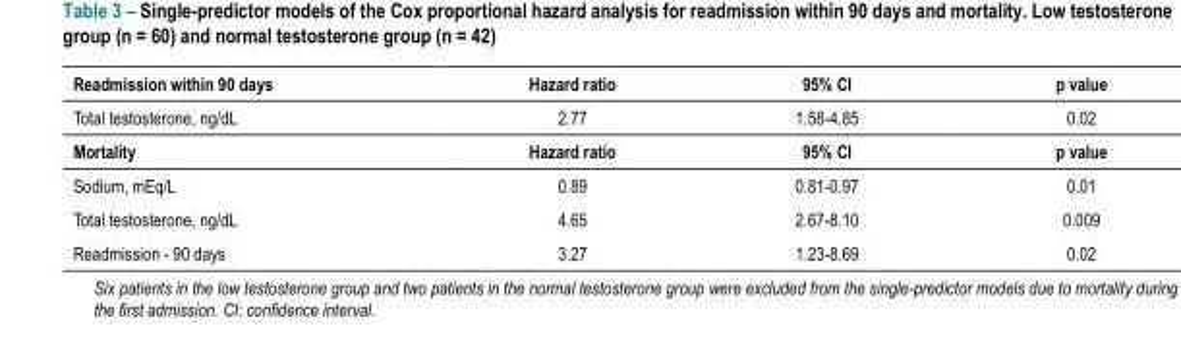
<table><thead><tr><td rowspan="3">Readmission within 90 days Total testosterone, ng/dL Mortality</td><td rowspan="3">Hazard ratio 2.77 Hazard ratio</td><td rowspan="3">95% CI 1.58-4.85 95% CI</td><td rowspan="3">p value 0.02 p value</td></tr><tr></tr><tr></tr></thead><tbody><tr><td>Sodium, mEq/L</td><td>0.89</td><td>0.81-0.97</td><td>0.01</td></tr><tr><td>Total testosterone, ng/dL</td><td>4.65</td><td>2.67-8.10</td><td>0.009</td></tr><tr><td>Readmission - 90 days</td><td>3.27</td><td>1.23-8.69</td><td>0.02</td></tr></tbody></table>